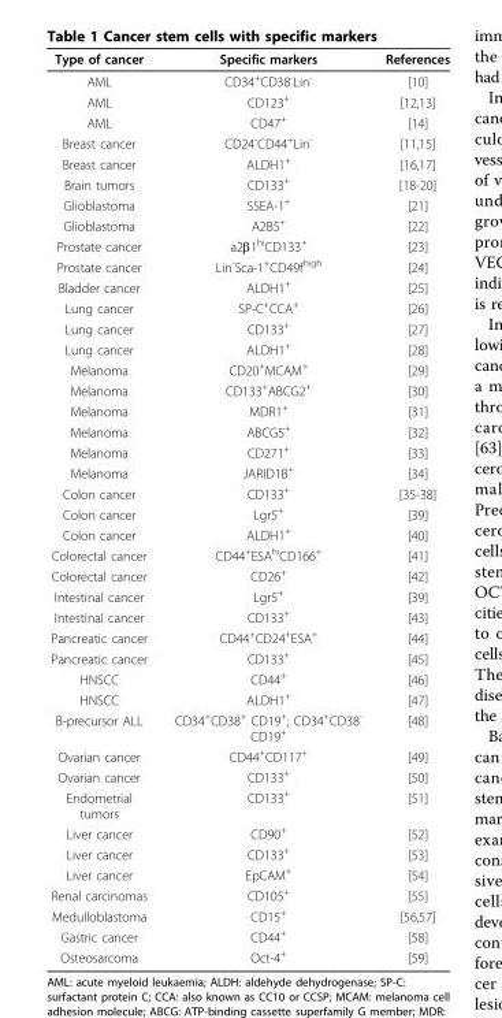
<table><thead><tr><td>Type of cancer</td><td>Specific markers</td><td>References</td></tr></thead><tbody><tr><td>AML</td><td>CD34<sup>+</sup>CD38<sup>-</sup>Lin<sup>-</sup></td><td>[10]</td></tr><tr><td>AML</td><td>CD123<sup>+</sup></td><td>[12,13]</td></tr><tr><td>AML</td><td>CD47<sup>+</sup></td><td>[14]</td></tr><tr><td>Breast cancer</td><td>CD24<sup>-</sup>CD44<sup>+</sup>Lin<sup>-</sup></td><td>[11,15]</td></tr><tr><td>Breast cancer</td><td>ALDH1<sup>+</sup></td><td>[16,17]</td></tr><tr><td>Brain tumors</td><td>CD133<sup>+</sup></td><td>[18-20]</td></tr><tr><td>Glioblastoma</td><td>SSEA-1<sup>+</sup></td><td>[21]</td></tr><tr><td>Glioblastoma</td><td>A2B5<sup>+</sup></td><td>[22]</td></tr><tr><td>Prostate cancer</td><td>a2β1<sup>hi</sup>CD133<sup>+</sup></td><td>[23]</td></tr><tr><td>Prostate cancer</td><td>Lin<sup>-</sup>Sca-1<sup>+</sup>CD49f<sup>high</sup></td><td>[24]</td></tr><tr><td>Bladder cancer</td><td>ALDH1<sup>+</sup></td><td>[25]</td></tr><tr><td>Lung cancer</td><td>SP-C<sup>+</sup>CCA<sup>+</sup></td><td>[26]</td></tr><tr><td>Lung cancer</td><td>CD133<sup>+</sup></td><td>[27]</td></tr><tr><td>Lung cancer</td><td>ALDH1<sup>+</sup></td><td>[28]</td></tr><tr><td>Melanoma</td><td>CD20<sup>+</sup>MCAM<sup>+</sup></td><td>[29]</td></tr><tr><td>Melanoma</td><td>CD133<sup>+</sup>ABCG2<sup>+</sup></td><td>[30]</td></tr><tr><td>Melanoma</td><td>MDR1<sup>+</sup></td><td>[31]</td></tr><tr><td>Melanoma</td><td>ABCG5<sup>+</sup></td><td>[32]</td></tr><tr><td>Melanoma</td><td>CD271<sup>+</sup></td><td>[33]</td></tr><tr><td>Melanoma</td><td>JARID1B<sup>+</sup></td><td>[34]</td></tr><tr><td>Colon cancer</td><td>CD133<sup>+</sup></td><td>[35-38]</td></tr><tr><td>Colon cancer</td><td>Lgr5<sup>+</sup></td><td>[39]</td></tr><tr><td>Colon cancer</td><td>ALDH1<sup>+</sup></td><td>[40]</td></tr><tr><td>Colorectal cancer</td><td>CD44<sup>+</sup>ESA<sup>hi</sup>CD166<sup>+</sup></td><td>[41]</td></tr><tr><td>Colorectal cancer</td><td>CD26<sup>+</sup></td><td>[42]</td></tr><tr><td>Intestinal cancer</td><td>Lgr5<sup>+</sup></td><td>[39]</td></tr><tr><td>Intestinal cancer</td><td>CD133<sup>+</sup></td><td>[43]</td></tr><tr><td>Pancreatic cancer</td><td>CD44<sup>+</sup>CD24<sup>+</sup>ESA<sup>+</sup></td><td>[44]</td></tr><tr><td>Pancreatic cancer</td><td>CD133<sup>+</sup></td><td>[45]</td></tr><tr><td>HNSCC</td><td>CD44<sup>+</sup></td><td>[46]</td></tr><tr><td>HNSCC</td><td>ALDH1<sup>+</sup></td><td>[47]</td></tr><tr><td>B-precursor ALL</td><td>CD34<sup>+</sup>CD38<sup>+</sup> CD19<sup>+</sup>; CD34<sup>+</sup>CD38<sup>-</sup> CD19<sup>+</sup></td><td>[48]</td></tr><tr><td>Ovarian cancer</td><td>CD44<sup>+</sup>CD117<sup>+</sup></td><td>[49]</td></tr><tr><td>Ovarian cancer</td><td>CD133<sup>+</sup></td><td>[50]</td></tr><tr><td>Endometrial tumors</td><td>CD133<sup>+</sup></td><td>[51]</td></tr><tr><td>Liver cancer</td><td>CD90<sup>+</sup></td><td>[52]</td></tr><tr><td>Liver cancer</td><td>CD133<sup>+</sup></td><td>[53]</td></tr><tr><td>Liver cancer</td><td>EpCAM<sup>+</sup></td><td>[54]</td></tr><tr><td>Renal carcinomas</td><td>CD105<sup>+</sup></td><td>[55]</td></tr><tr><td>Medulloblastoma</td><td>CD15<sup>+</sup></td><td>[56,57]</td></tr><tr><td>Gastric cancer</td><td>CD44<sup>+</sup></td><td>[58]</td></tr><tr><td>Osteosarcoma</td><td>Oct-4<sup>+</sup></td><td>[59]</td></tr></tbody></table>